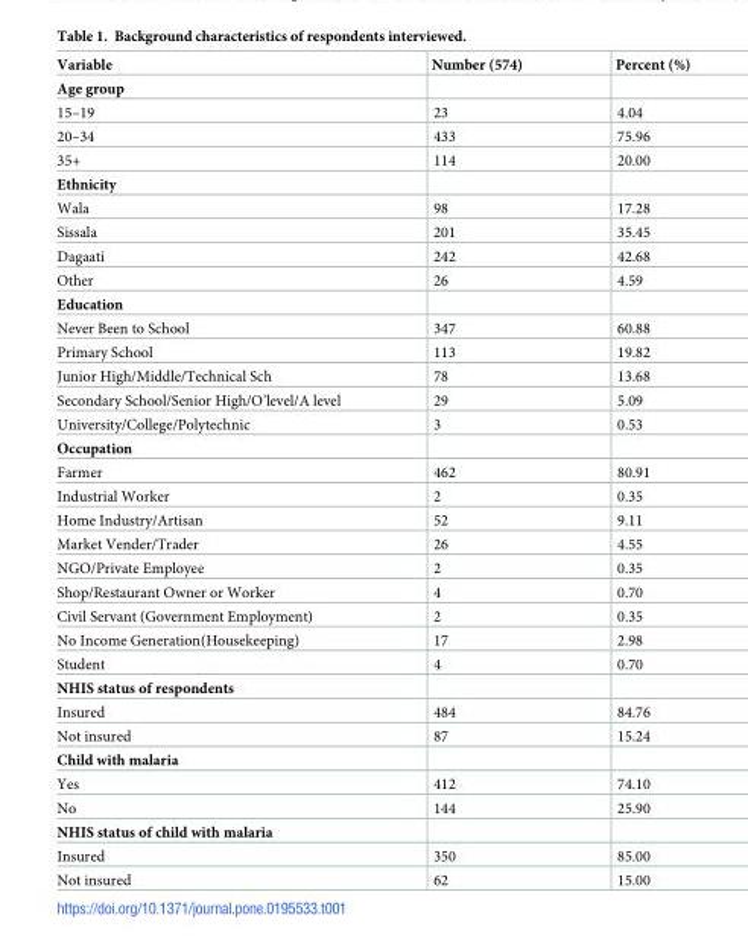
<table><thead><tr><td>Variable</td><td>Number (574)</td><td>Percent (%)</td></tr></thead><tbody><tr><td colspan="3">Age group</td></tr><tr><td>15–19</td><td>23</td><td>4.04</td></tr><tr><td>20–34</td><td>433</td><td>75.96</td></tr><tr><td>35+</td><td>114</td><td>20.00</td></tr><tr><td colspan="3">Ethnicity</td></tr><tr><td>Wala</td><td>98</td><td>17.28</td></tr><tr><td>Sissala</td><td>201</td><td>35.45</td></tr><tr><td>Dagaati</td><td>242</td><td>42.68</td></tr><tr><td>Other</td><td>26</td><td>4.59</td></tr><tr><td colspan="3">Education</td></tr><tr><td>Never Been to School</td><td>347</td><td>60.88</td></tr><tr><td>Primary School</td><td>113</td><td>19.82</td></tr><tr><td>Junior High/Middle/Technical Sch</td><td>78</td><td>13.68</td></tr><tr><td>Secondary School/Senior High/O’level/A level</td><td>29</td><td>5.09</td></tr><tr><td>University/College/Polytechnic</td><td>3</td><td>0.53</td></tr><tr><td colspan="3">Occupation</td></tr><tr><td>Farmer</td><td>462</td><td>80.91</td></tr><tr><td>Industrial Worker</td><td>2</td><td>0.35</td></tr><tr><td>Home Industry/Artisan</td><td>52</td><td>9.11</td></tr><tr><td>Market Vender/Trader</td><td>26</td><td>4.55</td></tr><tr><td>NGO/Private Employee</td><td>2</td><td>0.35</td></tr><tr><td>Shop/Restaurant Owner or Worker</td><td>4</td><td>0.70</td></tr><tr><td>Civil Servant (Government Employment)</td><td>2</td><td>0.35</td></tr><tr><td>No Income Generation(Housekeeping)</td><td>17</td><td>2.98</td></tr><tr><td>Student</td><td>4</td><td>0.70</td></tr><tr><td colspan="3">NHIS status of respondents</td></tr><tr><td>Insured</td><td>484</td><td>84.76</td></tr><tr><td>Not insured</td><td>87</td><td>15.24</td></tr><tr><td colspan="3">Child with malaria</td></tr><tr><td>Yes</td><td>412</td><td>74.10</td></tr><tr><td>No</td><td>144</td><td>25.90</td></tr><tr><td colspan="3">NHIS status of child with malaria</td></tr><tr><td>Insured</td><td>350</td><td>85.00</td></tr><tr><td>Not insured</td><td>62</td><td>15.00</td></tr></tbody></table>